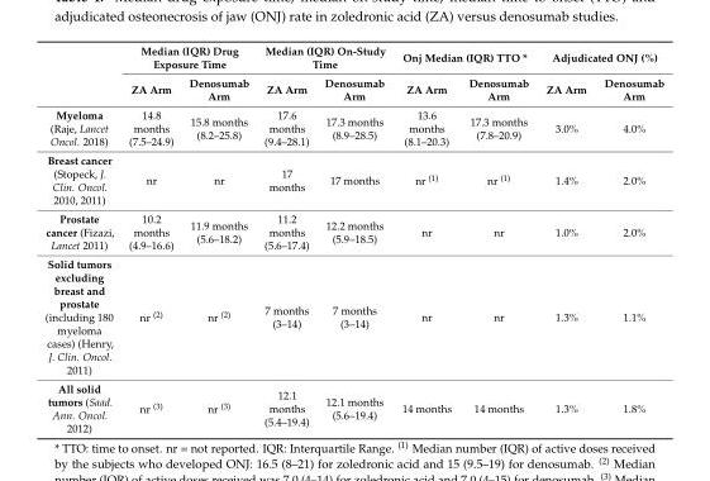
<table><thead><tr><td rowspan="2"></td><td colspan="2">Median (IQR) Drug Exposure Time</td><td colspan="2">Median (IQR) On-Study Time</td><td colspan="2">Onj Median (IQR) TTO *</td><td colspan="2">Adjudicated ONJ (%)</td></tr><tr><td>ZA Arm</td><td>Denosumab Arm</td><td>ZA Arm</td><td>Denosumab Arm</td><td>ZA Arm</td><td>Denosumab Arm</td><td>ZA Arm</td><td>Denosumab Arm</td></tr></thead><tbody><tr><td>Myeloma (Raje, Lancet Oncol. 2018)</td><td>14.8 months (7.5–24.9)</td><td>15.8 months (8.2–25.8)</td><td>17.6 months (9.4–28.1)</td><td>17.3 months (8.9–28.5)</td><td>13.6 months (8.1–20.3)</td><td>17.3 months (7.8–20.9)</td><td>3.0%</td><td>4.0%</td></tr><tr><td>Breast cancer (Stopeck, J. Clin. Oncol. 2010, 2011)</td><td>nr</td><td>nr</td><td>17 months</td><td>17 months</td><td>nr <sup>(1)</sup></td><td>nr <sup>(1)</sup></td><td>1.4%</td><td>2.0%</td></tr><tr><td>Prostate cancer (Fizazi, Lancet 2011)</td><td>10.2 months (4.9–16.6)</td><td>11.9 months (5.6–18.2)</td><td>11.2 months (5.6–17.4)</td><td>12.2 months (5.9–18.5)</td><td>nr</td><td>nr</td><td>1.0%</td><td>2.0%</td></tr><tr><td>Solid tumors excluding breast and prostate (including 180 myeloma cases) (Henry, J. Clin. Oncol. 2011)</td><td>nr <sup>(2)</sup></td><td>nr <sup>(2)</sup></td><td>7 months (3–14)</td><td>7 months (3–14)</td><td>nr</td><td>nr</td><td>1.3%</td><td>1.1%</td></tr><tr><td>All solid tumors (Saad. Ann. Oncol. 2012)</td><td>nr <sup>(3)</sup></td><td>nr <sup>(3)</sup></td><td>12.1 months (5.4–19.4)</td><td>12.1 months (5.6–19.4)</td><td>14 months</td><td>14 months</td><td>1.3%</td><td>1.8%</td></tr></tbody></table>